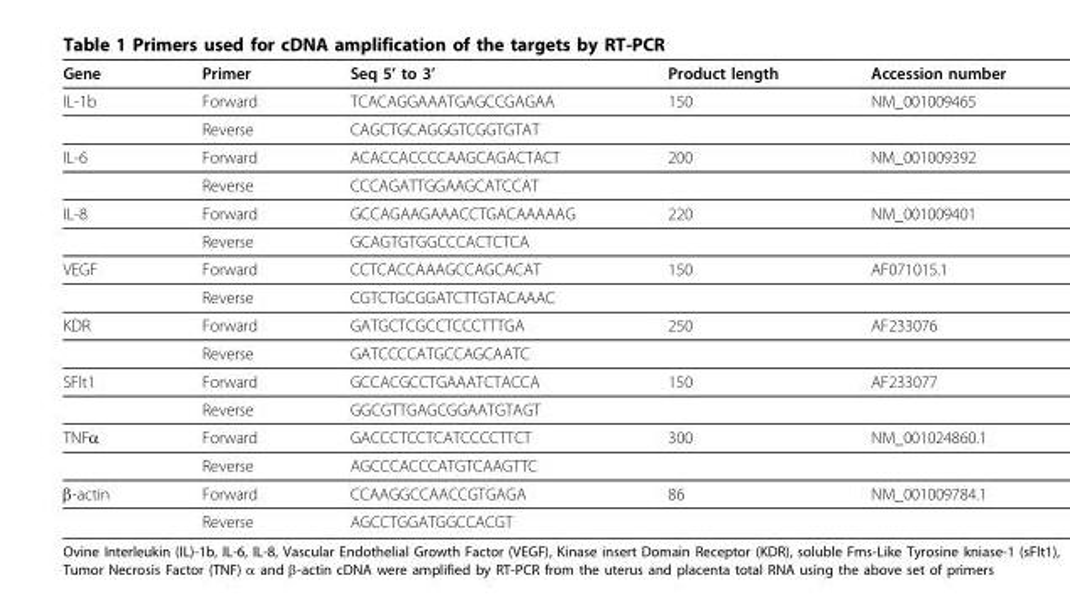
<table><thead><tr><td>Gene</td><td>Primer</td><td>Seq 5’ to 3’</td><td>Product length</td><td>Accession number</td></tr></thead><tbody><tr><td rowspan="2">IL-1b</td><td>Forward</td><td>TCACAGGAAATGAGCCGAGAA</td><td>150</td><td>NM_001009465</td></tr><tr><td>Reverse</td><td>CAGCTGCAGGGTCGGTGTAT</td><td></td><td></td></tr><tr><td rowspan="2">IL-6</td><td>Forward</td><td>ACACCACCCCAAGCAGACTACT</td><td>200</td><td>NM_001009392</td></tr><tr><td>Reverse</td><td>CCCAGATTGGAAGCATCCAT</td><td></td><td></td></tr><tr><td rowspan="2">IL-8</td><td>Forward</td><td>GCCAGAAGAAACCTGACAAAAAG</td><td>220</td><td>NM_001009401</td></tr><tr><td>Reverse</td><td>GCAGTGTGGCCCACTCTCA</td><td></td><td></td></tr><tr><td rowspan="2">VEGF</td><td>Forward</td><td>CCTCACCAAAGCCAGCACAT</td><td>150</td><td>AF071015.1</td></tr><tr><td>Reverse</td><td>CGTCTGCGGATCTTGTACAAAC</td><td></td><td></td></tr><tr><td rowspan="2">KDR</td><td>Forward</td><td>GATGCTCGCCTCCCTTTGA</td><td>250</td><td>AF233076</td></tr><tr><td>Reverse</td><td>GATCCCCATGCCAGCAATC</td><td></td><td></td></tr><tr><td rowspan="2">SFlt1</td><td>Forward</td><td>GCCACGCCTGAAATCTACCA</td><td>150</td><td>AF233077</td></tr><tr><td>Reverse</td><td>GGCGTTGAGCGGAATGTAGT</td><td></td><td></td></tr><tr><td rowspan="2">TNFα</td><td>Forward</td><td>GACCCTCCTCATCCCCTTCT</td><td>300</td><td>NM_001024860.1</td></tr><tr><td>Reverse</td><td>AGCCCACCCATGTCAAGTTC</td><td></td><td></td></tr><tr><td rowspan="2">β-actin</td><td>Forward</td><td>CCAAGGCCAACCGTGAGA</td><td>86</td><td>NM_001009784.1</td></tr><tr><td>Reverse</td><td>AGCCTGGATGGCCACGT</td><td></td><td></td></tr></tbody></table>